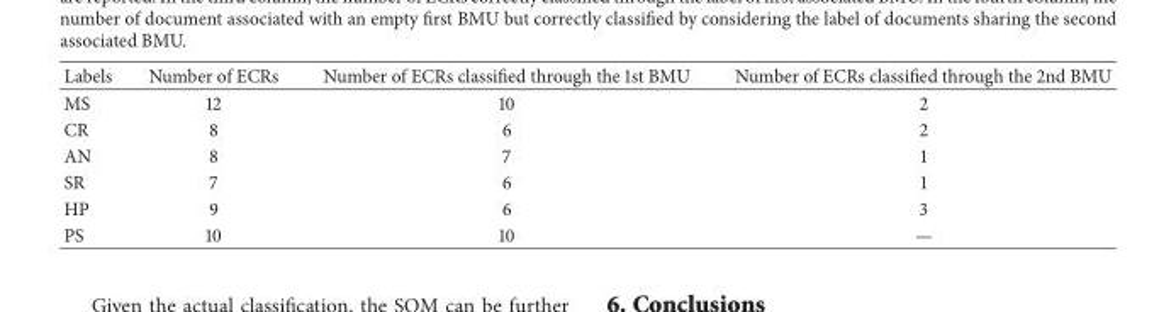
<table><thead><tr><td>Labels</td><td>Number of ECRs</td><td>Number of ECRs classified through the 1st BMU</td><td>Number of ECRs classified through the 2nd BMU</td></tr></thead><tbody><tr><td>MS</td><td>12</td><td>10</td><td>2</td></tr><tr><td>CR</td><td>8</td><td>6</td><td>2</td></tr><tr><td>AN</td><td>8</td><td>7</td><td>1</td></tr><tr><td>SR</td><td>7</td><td>6</td><td>1</td></tr><tr><td>HP</td><td>9</td><td>6</td><td>3</td></tr><tr><td>PS</td><td>10</td><td>10</td><td>—</td></tr></tbody></table>